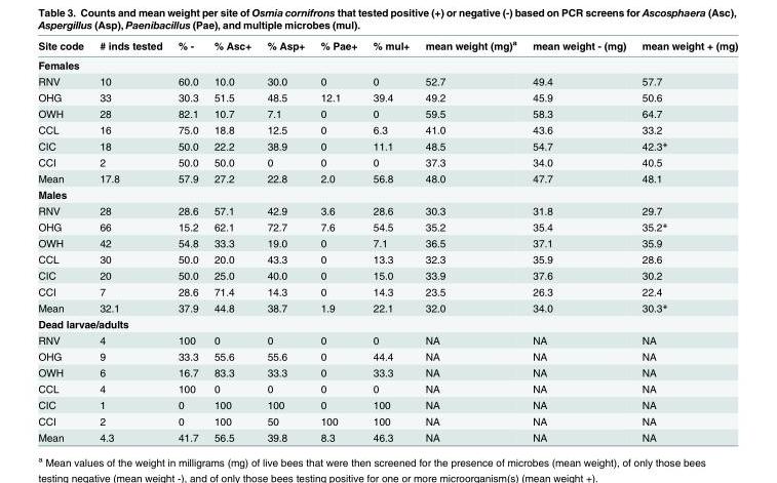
<table><thead><tr><td>Site code</td><td># inds tested</td><td>% -</td><td>% Asc+</td><td>% Asp+</td><td>% Pae+</td><td>% mul+</td><td>mean weight (mg)<sup>a</sup></td><td>mean weight - (mg)</td><td>mean weight + (mg)</td></tr></thead><tbody><tr><td colspan="10">Females</td></tr><tr><td>RNV</td><td>10</td><td>60.0</td><td>10.0</td><td>30.0</td><td>0</td><td>0</td><td>52.7</td><td>49.4</td><td>57.7</td></tr><tr><td>OHG</td><td>33</td><td>30.3</td><td>51.5</td><td>48.5</td><td>12.1</td><td>39.4</td><td>49.2</td><td>45.9</td><td>50.6</td></tr><tr><td>OWH</td><td>28</td><td>82.1</td><td>10.7</td><td>7.1</td><td>0</td><td>0</td><td>59.5</td><td>58.3</td><td>64.7</td></tr><tr><td>CCL</td><td>16</td><td>75.0</td><td>18.8</td><td>12.5</td><td>0</td><td>6.3</td><td>41.0</td><td>43.6</td><td>33.2</td></tr><tr><td>CIC</td><td>18</td><td>50.0</td><td>22.2</td><td>38.9</td><td>0</td><td>11.1</td><td>48.5</td><td>54.7</td><td>42.3*</td></tr><tr><td>CCI</td><td>2</td><td>50.0</td><td>50.0</td><td>0</td><td>0</td><td>0</td><td>37.3</td><td>34.0</td><td>40.5</td></tr><tr><td>Mean</td><td>17.8</td><td>57.9</td><td>27.2</td><td>22.8</td><td>2.0</td><td>56.8</td><td>48.0</td><td>47.7</td><td>48.1</td></tr><tr><td colspan="10">Males</td></tr><tr><td>RNV</td><td>28</td><td>28.6</td><td>57.1</td><td>42.9</td><td>3.6</td><td>28.6</td><td>30.3</td><td>31.8</td><td>29.7</td></tr><tr><td>OHG</td><td>66</td><td>15.2</td><td>62.1</td><td>72.7</td><td>7.6</td><td>54.5</td><td>35.2</td><td>35.4</td><td>35.2*</td></tr><tr><td>OWH</td><td>42</td><td>54.8</td><td>33.3</td><td>19.0</td><td>0</td><td>7.1</td><td>36.5</td><td>37.1</td><td>35.9</td></tr><tr><td>CCL</td><td>30</td><td>50.0</td><td>20.0</td><td>43.3</td><td>0</td><td>13.3</td><td>32.3</td><td>35.9</td><td>28.6</td></tr><tr><td>CIC</td><td>20</td><td>50.0</td><td>25.0</td><td>40.0</td><td>0</td><td>15.0</td><td>33.9</td><td>37.6</td><td>30.2</td></tr><tr><td>CCI</td><td>7</td><td>28.6</td><td>71.4</td><td>14.3</td><td>0</td><td>14.3</td><td>23.5</td><td>26.3</td><td>22.4</td></tr><tr><td>Mean</td><td>32.1</td><td>37.9</td><td>44.8</td><td>38.7</td><td>1.9</td><td>22.1</td><td>32.0</td><td>34.0</td><td>30.3*</td></tr><tr><td colspan="10">Dead larvae/adults</td></tr><tr><td>RNV</td><td>4</td><td>100</td><td>0</td><td>0</td><td>0</td><td>0</td><td>NA</td><td>NA</td><td>NA</td></tr><tr><td>OHG</td><td>9</td><td>33.3</td><td>55.6</td><td>55.6</td><td>0</td><td>44.4</td><td>NA</td><td>NA</td><td>NA</td></tr><tr><td>OWH</td><td>6</td><td>16.7</td><td>83.3</td><td>33.3</td><td>0</td><td>33.3</td><td>NA</td><td>NA</td><td>NA</td></tr><tr><td>CCL</td><td>4</td><td>100</td><td>0</td><td>0</td><td>0</td><td>0</td><td>NA</td><td>NA</td><td>NA</td></tr><tr><td>CIC</td><td>1</td><td>0</td><td>100</td><td>100</td><td>0</td><td>100</td><td>NA</td><td>NA</td><td>NA</td></tr><tr><td>CCI</td><td>2</td><td>0</td><td>100</td><td>50</td><td>100</td><td>100</td><td>NA</td><td>NA</td><td>NA</td></tr><tr><td>Mean</td><td>4.3</td><td>41.7</td><td>56.5</td><td>39.8</td><td>8.3</td><td>46.3</td><td>NA</td><td>NA</td><td>NA</td></tr></tbody></table>